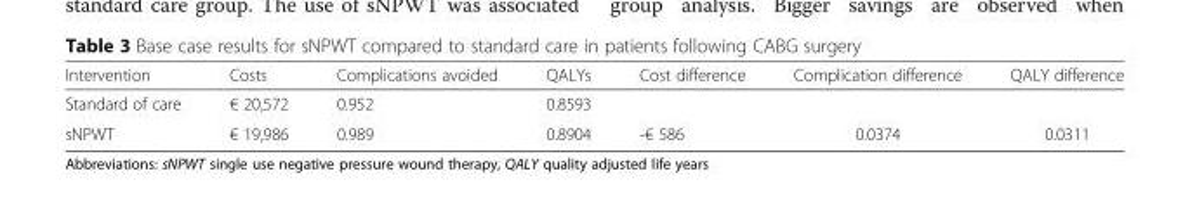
<table><thead><tr><td>Intervention</td><td>Costs</td><td>Complications avoided</td><td>QALYs</td><td>Cost difference</td><td>Complication difference</td><td>QALY difference</td></tr></thead><tbody><tr><td>Standard of care</td><td>€ 20,572</td><td>0.952</td><td>0.8593</td><td></td><td></td><td></td></tr><tr><td>sNPWT</td><td>€ 19,986</td><td>0.989</td><td>0.8904</td><td>-€ 586</td><td>0.0374</td><td>0.0311</td></tr></tbody></table>